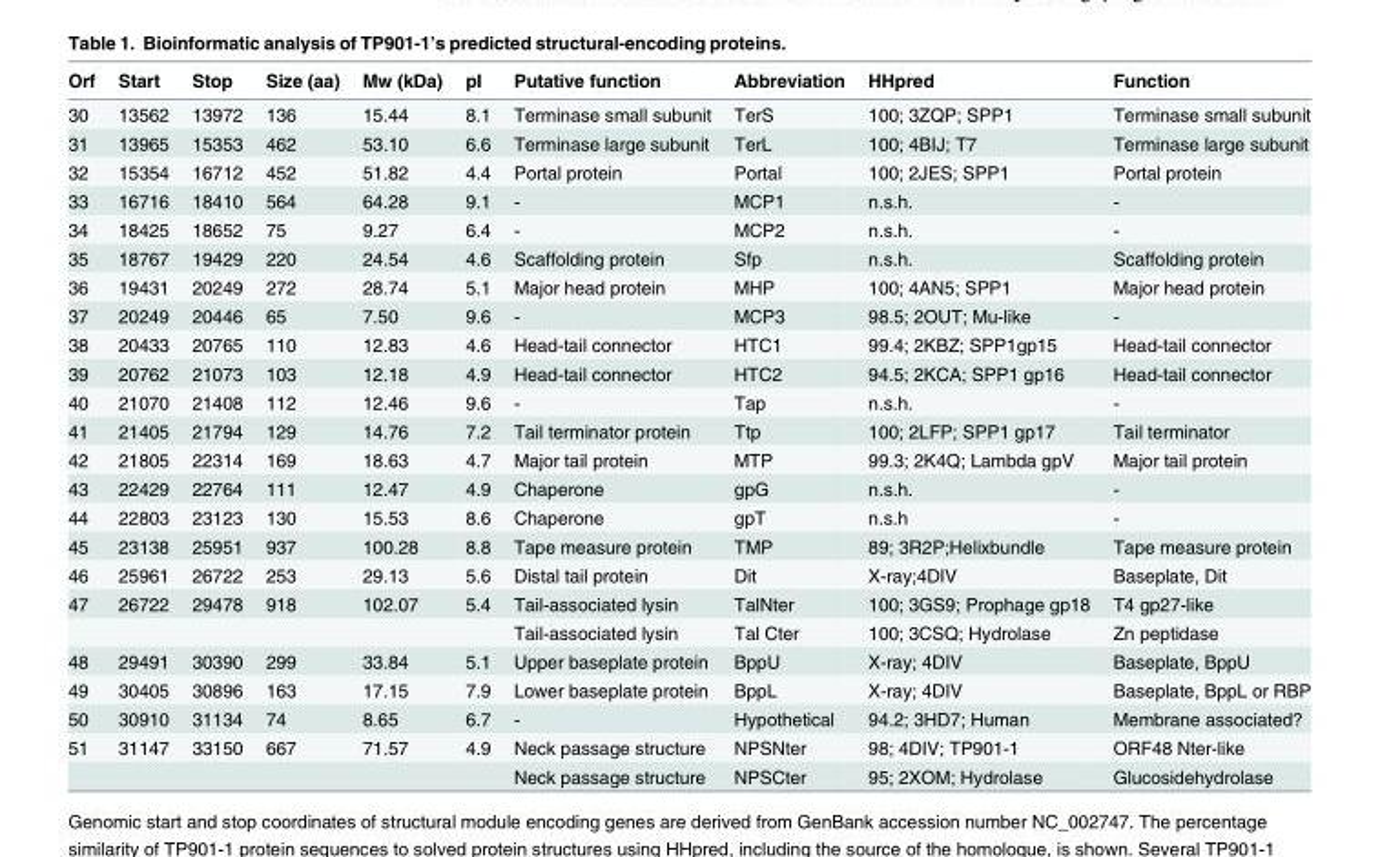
<table><thead><tr><td>Orf</td><td>Start</td><td>Stop</td><td>Size (aa)</td><td>Mw (kDa)</td><td>pI</td><td>Putative function</td><td>Abbreviation</td><td>HHpred</td><td>Function</td></tr></thead><tbody><tr><td>30</td><td>13562</td><td>13972</td><td>136</td><td>15.44</td><td>8.1</td><td>Terminase small subunit</td><td>TerS</td><td>100; 3ZQP; SPP1</td><td>Terminase small subunit</td></tr><tr><td>31</td><td>13965</td><td>15353</td><td>462</td><td>53.10</td><td>6.6</td><td>Terminase large subunit</td><td>TerL</td><td>100; 4BIJ; T7</td><td>Terminase large subunit</td></tr><tr><td>32</td><td>15354</td><td>16712</td><td>452</td><td>51.82</td><td>4.4</td><td>Portal protein</td><td>Portal</td><td>100; 2JES; SPP1</td><td>Portal protein</td></tr><tr><td>33</td><td>16716</td><td>18410</td><td>564</td><td>64.28</td><td>9.1</td><td>-</td><td>MCP1</td><td>n.s.h.</td><td>-</td></tr><tr><td>34</td><td>18425</td><td>18652</td><td>75</td><td>9.27</td><td>6.4</td><td>-</td><td>MCP2</td><td>n.s.h.</td><td>-</td></tr><tr><td>35</td><td>18767</td><td>19429</td><td>220</td><td>24.54</td><td>4.6</td><td>Scaffolding protein</td><td>Sfp</td><td>n.s.h.</td><td>Scaffolding protein</td></tr><tr><td>36</td><td>19431</td><td>20249</td><td>272</td><td>28.74</td><td>5.1</td><td>Major head protein</td><td>MHP</td><td>100; 4AN5; SPP1</td><td>Major head protein</td></tr><tr><td>37</td><td>20249</td><td>20446</td><td>65</td><td>7.50</td><td>9.6</td><td>-</td><td>MCP3</td><td>98.5; 2OUT; Mu-like</td><td>-</td></tr><tr><td>38</td><td>20433</td><td>20765</td><td>110</td><td>12.83</td><td>4.6</td><td>Head-tail connector</td><td>HTC1</td><td>99.4; 2KBZ; SPP1gp15</td><td>Head-tail connector</td></tr><tr><td>39</td><td>20762</td><td>21073</td><td>103</td><td>12.18</td><td>4.9</td><td>Head-tail connector</td><td>HTC2</td><td>94.5; 2KCA; SPP1 gp16</td><td>Head-tail connector</td></tr><tr><td>40</td><td>21070</td><td>21408</td><td>112</td><td>12.46</td><td>9.6</td><td>-</td><td>Tap</td><td>n.s.h.</td><td>-</td></tr><tr><td>41</td><td>21405</td><td>21794</td><td>129</td><td>14.76</td><td>7.2</td><td>Tail terminator protein</td><td>Ttp</td><td>100; 2LFP; SPP1 gp17</td><td>Tail terminator</td></tr><tr><td>42</td><td>21805</td><td>22314</td><td>169</td><td>18.63</td><td>4.7</td><td>Major tail protein</td><td>MTP</td><td>99.3; 2K4Q; Lambda gpV</td><td>Major tail protein</td></tr><tr><td>43</td><td>22429</td><td>22764</td><td>111</td><td>12.47</td><td>4.9</td><td>Chaperone</td><td>gpG</td><td>n.s.h.</td><td>-</td></tr><tr><td>44</td><td>22803</td><td>23123</td><td>130</td><td>15.53</td><td>8.6</td><td>Chaperone</td><td>gpT</td><td>n.s.h</td><td>-</td></tr><tr><td>45</td><td>23138</td><td>25951</td><td>937</td><td>100.28</td><td>8.8</td><td>Tape measure protein</td><td>TMP</td><td>89; 3R2P;Helixbundle</td><td>Tape measure protein</td></tr><tr><td>46</td><td>25961</td><td>26722</td><td>253</td><td>29.13</td><td>5.6</td><td>Distal tail protein</td><td>Dit</td><td>X-ray;4DIV</td><td>Baseplate, Dit</td></tr><tr><td rowspan="2">47</td><td>26722</td><td>29478</td><td>918</td><td>102.07</td><td>5.4</td><td>Tail-associated lysin</td><td>TalNter</td><td>100; 3GS9; Prophage gp18</td><td>T4 gp27-like</td></tr><tr><td></td><td></td><td></td><td></td><td></td><td>Tail-associated lysin</td><td>Tal Cter</td><td>100; 3CSQ; Hydrolase</td><td>Zn peptidase</td></tr><tr><td>48</td><td>29491</td><td>30390</td><td>299</td><td>33.84</td><td>5.1</td><td>Upper baseplate protein</td><td>BppU</td><td>X-ray; 4DIV</td><td>Baseplate, BppU</td></tr><tr><td>49</td><td>30405</td><td>30896</td><td>163</td><td>17.15</td><td>7.9</td><td>Lower baseplate protein</td><td>BppL</td><td>X-ray; 4DIV</td><td>Baseplate, BppL or RBP</td></tr><tr><td>50</td><td>30910</td><td>31134</td><td>74</td><td>8.65</td><td>6.7</td><td>-</td><td>Hypothetical</td><td>94.2; 3HD7; Human</td><td>Membrane associated?</td></tr><tr><td rowspan="2">51</td><td>31147</td><td>33150</td><td>667</td><td>71.57</td><td>4.9</td><td>Neck passage structure</td><td>NPSNter</td><td>98; 4DIV; TP901-1</td><td>ORF48 Nter-like</td></tr><tr><td></td><td></td><td></td><td></td><td></td><td>Neck passage structure</td><td>NPSCter</td><td>95; 2XOM; Hydrolase</td><td>Glucosidehydrolase</td></tr></tbody></table>